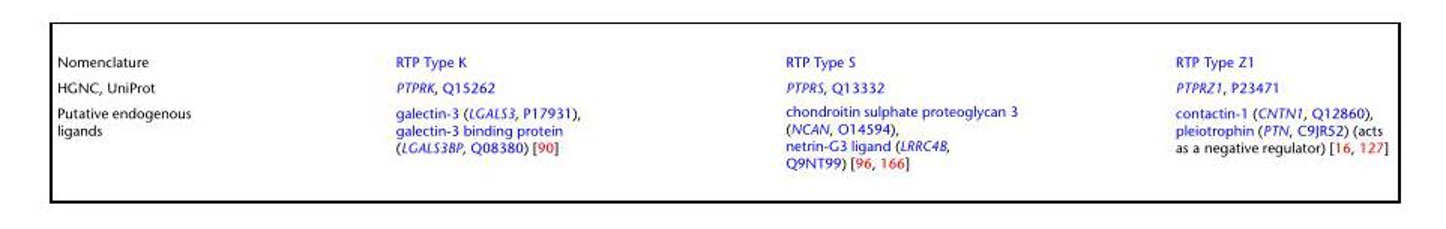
<table><tbody><tr><td>Nomenclature</td><td>RTP Type K</td><td>RTP Type S</td><td>RTP Type Z1</td></tr><tr><td>HGNC, UniProt</td><td>PTPRK, Q15262</td><td>PTPRS, Q13332</td><td>PTPRZ1, P23471</td></tr><tr><td>Putative endogenous ligands</td><td>galectin-3 (LGALS3, P17931), galectin-3 binding protein (LGALS3BP, Q08380) [90]</td><td>chondroitin sulphate proteoglycan 3 (NCAN, O14594), netrin-G3 ligand (LRRC4B, Q9NT99) [96, 166]</td><td>contactin-1 (CNTN1, Q12860), pleiotrophin (PTN, C9JR52) (acts as a negative regulator) [16, 127]</td></tr></tbody></table>